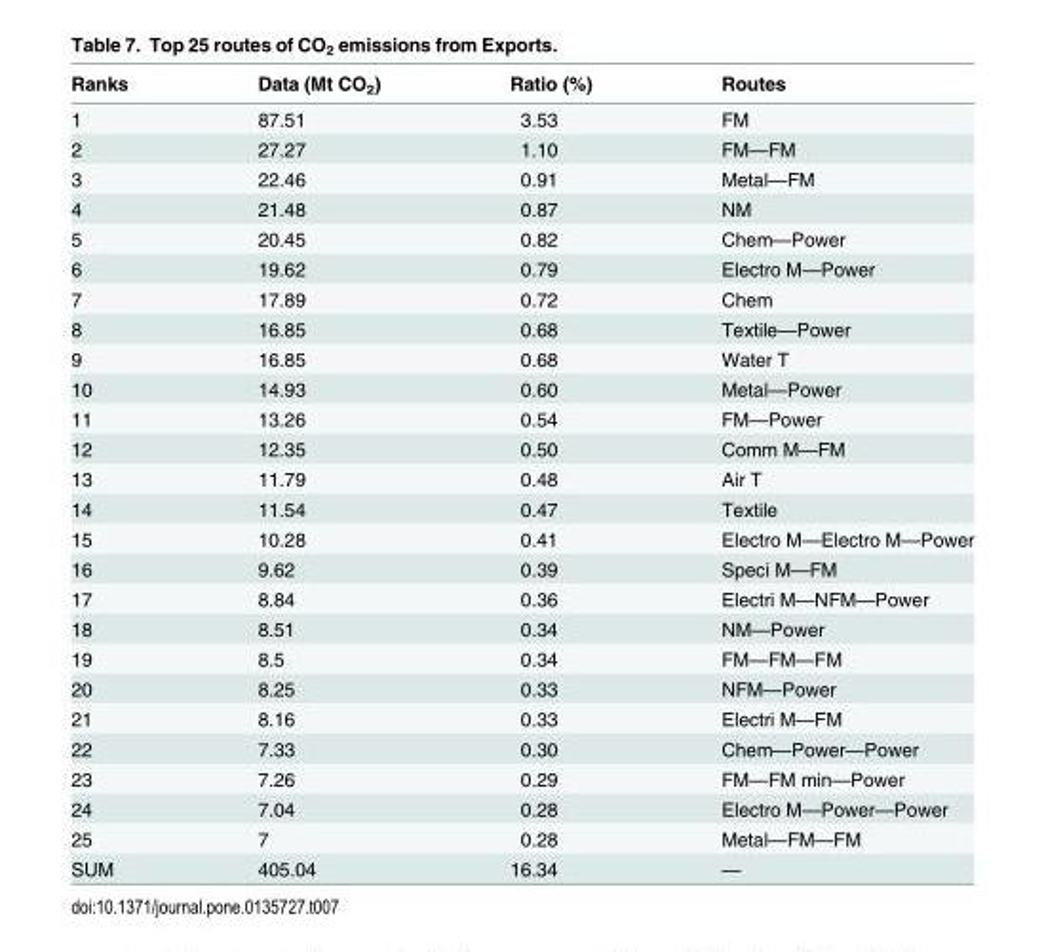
<table><thead><tr><td>Ranks</td><td>Data (Mt CO<sub>2</sub>)</td><td>Ratio (%)</td><td>Routes</td></tr></thead><tbody><tr><td>1</td><td>87.51</td><td>3.53</td><td>FM</td></tr><tr><td>2</td><td>27.27</td><td>1.10</td><td>FM—FM</td></tr><tr><td>3</td><td>22.46</td><td>0.91</td><td>Metal—FM</td></tr><tr><td>4</td><td>21.48</td><td>0.87</td><td>NM</td></tr><tr><td>5</td><td>20.45</td><td>0.82</td><td>Chem—Power</td></tr><tr><td>6</td><td>19.62</td><td>0.79</td><td>Electro M—Power</td></tr><tr><td>7</td><td>17.89</td><td>0.72</td><td>Chem</td></tr><tr><td>8</td><td>16.85</td><td>0.68</td><td>Textile—Power</td></tr><tr><td>9</td><td>16.85</td><td>0.68</td><td>Water T</td></tr><tr><td>10</td><td>14.93</td><td>0.60</td><td>Metal—Power</td></tr><tr><td>11</td><td>13.26</td><td>0.54</td><td>FM—Power</td></tr><tr><td>12</td><td>12.35</td><td>0.50</td><td>Comm M—FM</td></tr><tr><td>13</td><td>11.79</td><td>0.48</td><td>Air T</td></tr><tr><td>14</td><td>11.54</td><td>0.47</td><td>Textile</td></tr><tr><td>15</td><td>10.28</td><td>0.41</td><td>Electro M—Electro M—Power</td></tr><tr><td>16</td><td>9.62</td><td>0.39</td><td>Speci M—FM</td></tr><tr><td>17</td><td>8.84</td><td>0.36</td><td>Electri M—NFM—Power</td></tr><tr><td>18</td><td>8.51</td><td>0.34</td><td>NM—Power</td></tr><tr><td>19</td><td>8.5</td><td>0.34</td><td>FM—FM—FM</td></tr><tr><td>20</td><td>8.25</td><td>0.33</td><td>NFM—Power</td></tr><tr><td>21</td><td>8.16</td><td>0.33</td><td>Electri M—FM</td></tr><tr><td>22</td><td>7.33</td><td>0.30</td><td>Chem—Power—Power</td></tr><tr><td>23</td><td>7.26</td><td>0.29</td><td>FM—FM min—Power</td></tr><tr><td>24</td><td>7.04</td><td>0.28</td><td>Electro M—Power—Power</td></tr><tr><td>25</td><td>7</td><td>0.28</td><td>Metal—FM—FM</td></tr><tr><td>SUM</td><td>405.04</td><td>16.34</td><td>—</td></tr></tbody></table>